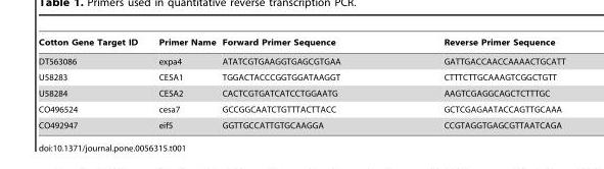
<table><thead><tr><td>Cotton Gene Target ID</td><td>Primer Name</td><td>Forward Primer Sequence</td><td>Reverse Primer Sequence</td></tr></thead><tbody><tr><td>DT563086</td><td>expa4</td><td>ATATCGTGAAGGTGAGCGTGAA</td><td>GATTGACCAACCAAAACTGCATT</td></tr><tr><td>U58283</td><td>CESA1</td><td>TGGACTACCCGGTGGATAAGGT</td><td>CTTTCTTGCAAAGTCGGCTGTT</td></tr><tr><td>U58284</td><td>CESA2</td><td>CACTCGTGATCATCCTGGAATG</td><td>AAGTCGAGGCAGCTCTTTGC</td></tr><tr><td>CO496524</td><td>cesa7</td><td>GCCGGCAATCTGTTTACTTACC</td><td>GCTCGAGAATACCAGTTGCAAA</td></tr><tr><td>CO492947</td><td>eif5</td><td>GGTTGCCATTGTGCAAGGA</td><td>CCGTAGGTGAGCGTTAATCAGA</td></tr></tbody></table>